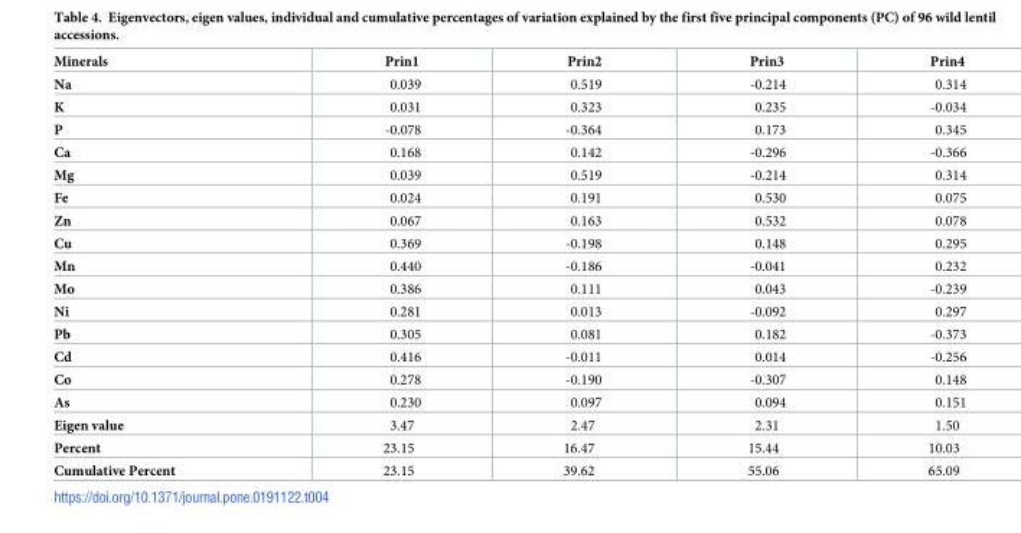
<table><thead><tr><td>Minerals</td><td>Prin1</td><td>Prin2</td><td>Prin3</td><td>Prin4</td></tr></thead><tbody><tr><td>Na</td><td>0.039</td><td>0.519</td><td>-0.214</td><td>0.314</td></tr><tr><td>K</td><td>0.031</td><td>0.323</td><td>0.235</td><td>-0.034</td></tr><tr><td>P</td><td>-0.078</td><td>-0.364</td><td>0.173</td><td>0.345</td></tr><tr><td>Ca</td><td>0.168</td><td>0.142</td><td>-0.296</td><td>-0.366</td></tr><tr><td>Mg</td><td>0.039</td><td>0.519</td><td>-0.214</td><td>0.314</td></tr><tr><td>Fe</td><td>0.024</td><td>0.191</td><td>0.530</td><td>0.075</td></tr><tr><td>Zn</td><td>0.067</td><td>0.163</td><td>0.532</td><td>0.078</td></tr><tr><td>Cu</td><td>0.369</td><td>-0.198</td><td>0.148</td><td>0.295</td></tr><tr><td>Mn</td><td>0.440</td><td>-0.186</td><td>-0.041</td><td>0.232</td></tr><tr><td>Mo</td><td>0.386</td><td>0.111</td><td>0.043</td><td>-0.239</td></tr><tr><td>Ni</td><td>0.281</td><td>0.013</td><td>-0.092</td><td>0.297</td></tr><tr><td>Pb</td><td>0.305</td><td>0.081</td><td>0.182</td><td>-0.373</td></tr><tr><td>Cd</td><td>0.416</td><td>-0.011</td><td>0.014</td><td>-0.256</td></tr><tr><td>Co</td><td>0.278</td><td>-0.190</td><td>-0.307</td><td>0.148</td></tr><tr><td>As</td><td>0.230</td><td>0.097</td><td>0.094</td><td>0.151</td></tr><tr><td>Eigen value</td><td>3.47</td><td>2.47</td><td>2.31</td><td>1.50</td></tr><tr><td>Percent</td><td>23.15</td><td>16.47</td><td>15.44</td><td>10.03</td></tr><tr><td>Cumulative Percent</td><td>23.15</td><td>39.62</td><td>55.06</td><td>65.09</td></tr></tbody></table>